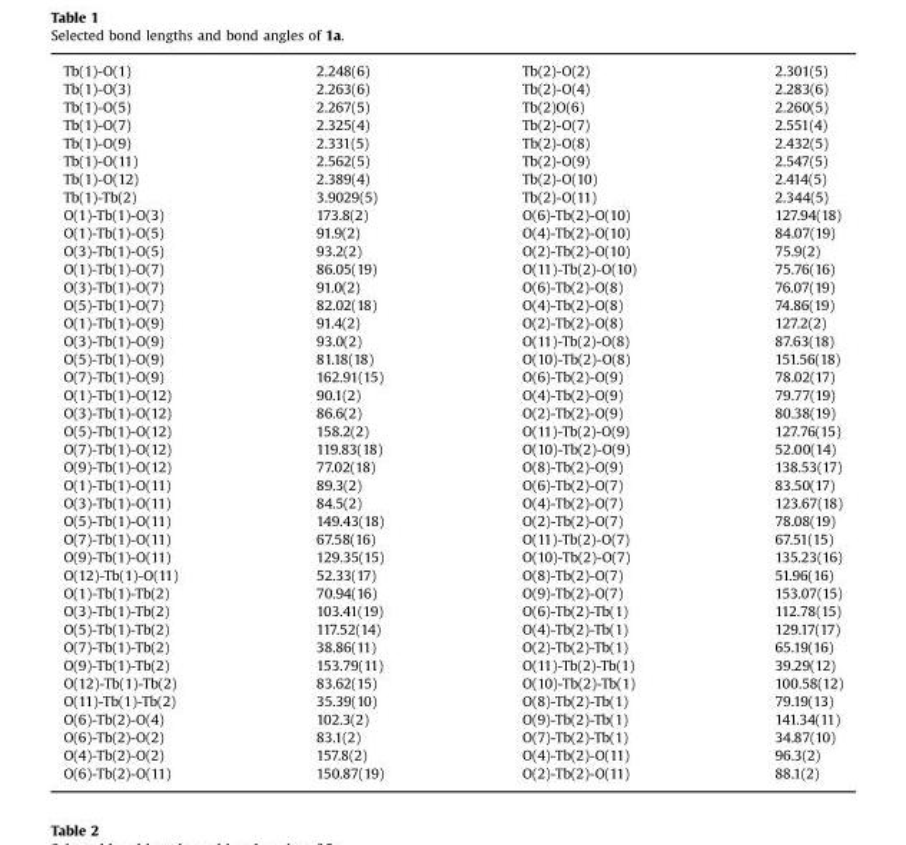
<table><tbody><tr><td>Tb(1)-O(1)</td><td>2.248(6)</td><td>Tb(2)-O(2)</td><td>2.301(5)</td></tr><tr><td>Tb(1)-O(3)</td><td>2.263(6)</td><td>Tb(2)-O(4)</td><td>2.283(6)</td></tr><tr><td>Tb(1)-O(5)</td><td>2.267(5)</td><td>Tb(2)O(6)</td><td>2.260(5)</td></tr><tr><td>Tb(1)-O(7)</td><td>2.325(4)</td><td>Tb(2)-O(7)</td><td>2.551(4)</td></tr><tr><td>Tb(1)-O(9)</td><td>2.331(5)</td><td>Tb(2)-O(8)</td><td>2.432(5)</td></tr><tr><td>Tb(1)-O(11)</td><td>2.562(5)</td><td>Tb(2)-O(9)</td><td>2.547(5)</td></tr><tr><td>Tb(1)-O(12)</td><td>2.389(4)</td><td>Tb(2)-O(10)</td><td>2.414(5)</td></tr><tr><td>Tb(1)-Tb(2)</td><td>3.9029(5)</td><td>Tb(2)-O(11)</td><td>2.344(5)</td></tr><tr><td>O(1)-Tb(1)-O(3)</td><td>173.8(2)</td><td>O(6)-Tb(2)-O(10)</td><td>127.94(18)</td></tr><tr><td>O(1)-Tb(1)-O(5)</td><td>91.9(2)</td><td>O(4)-Tb(2)-O(10)</td><td>84.07(19)</td></tr><tr><td>O(3)-Tb(1)-O(5)</td><td>93.2(2)</td><td>O(2)-Tb(2)-O(10)</td><td>75.9(2)</td></tr><tr><td>O(1)-Tb(1)-O(7)</td><td>86.05(19)</td><td>O(11)-Tb(2)-O(10)</td><td>75.76(16)</td></tr><tr><td>O(3)-Tb(1)-O(7)</td><td>91.0(2)</td><td>O(6)-Tb(2)-O(8)</td><td>76.07(19)</td></tr><tr><td>O(5)-Tb(1)-O(7)</td><td>82.02(18)</td><td>O(4)-Tb(2)-O(8)</td><td>74.86(19)</td></tr><tr><td>O(1)-Tb(1)-O(9)</td><td>91.4(2)</td><td>O(2)-Tb(2)-O(8)</td><td>127.2(2)</td></tr><tr><td>O(3)-Tb(1)-O(9)</td><td>93.0(2)</td><td>O(11)-Tb(2)-O(8)</td><td>87.63(18)</td></tr><tr><td>O(5)-Tb(1)-O(9)</td><td>81.18(18)</td><td>O(10)-Tb(2)-O(8)</td><td>151.56(18)</td></tr><tr><td>O(7)-Tb(1)-O(9)</td><td>162.91(15)</td><td>O(6)-Tb(2)-O(9)</td><td>78.02(17)</td></tr><tr><td>O(1)-Tb(1)-O(12)</td><td>90.1(2)</td><td>O(4)-Tb(2)-O(9)</td><td>79.77(19)</td></tr><tr><td>O(3)-Tb(1)-O(12)</td><td>86.6(2)</td><td>O(2)-Tb(2)-O(9)</td><td>80.38(19)</td></tr><tr><td>O(5)-Tb(1)-O(12)</td><td>158.2(2)</td><td>O(11)-Tb(2)-O(9)</td><td>127.76(15)</td></tr><tr><td>O(7)-Tb(1)-O(12)</td><td>119.83(18)</td><td>O(10)-Tb(2)-O(9)</td><td>52.00(14)</td></tr><tr><td>O(9)-Tb(1)-O(12)</td><td>77.02(18)</td><td>O(8)-Tb(2)-O(9)</td><td>138.53(17)</td></tr><tr><td>O(1)-Tb(1)-O(11)</td><td>89.3(2)</td><td>O(6)-Tb(2)-O(7)</td><td>83.50(17)</td></tr><tr><td>O(3)-Tb(1)-O(11)</td><td>84.5(2)</td><td>O(4)-Tb(2)-O(7)</td><td>123.67(18)</td></tr><tr><td>O(5)-Tb(1)-O(11)</td><td>149.43(18)</td><td>O(2)-Tb(2)-O(7)</td><td>78.08(19)</td></tr><tr><td>O(7)-Tb(1)-O(11)</td><td>67.58(16)</td><td>O(11)-Tb(2)-O(7)</td><td>67.51(15)</td></tr><tr><td>O(9)-Tb(1)-O(11)</td><td>129.35(15)</td><td>O(10)-Tb(2)-O(7)</td><td>135.23(16)</td></tr><tr><td>O(12)-Tb(1)-O(11)</td><td>52.33(17)</td><td>O(8)-Tb(2)-O(7)</td><td>51.96(16)</td></tr><tr><td>O(1)-Tb(1)-Tb(2)</td><td>70.94(16)</td><td>O(9)-Tb(2)-O(7)</td><td>153.07(15)</td></tr><tr><td>O(3)-Tb(1)-Tb(2)</td><td>103.41(19)</td><td>O(6)-Tb(2)-Tb(1)</td><td>112.78(15)</td></tr><tr><td>O(5)-Tb(1)-Tb(2)</td><td>117.52(14)</td><td>O(4)-Tb(2)-Tb(1)</td><td>129.17(17)</td></tr><tr><td>O(7)-Tb(1)-Tb(2)</td><td>38.86(11)</td><td>O(2)-Tb(2)-Tb(1)</td><td>65.19(16)</td></tr><tr><td>O(9)-Tb(1)-Tb(2)</td><td>153.79(11)</td><td>O(11)-Tb(2)-Tb(1)</td><td>39.29(12)</td></tr><tr><td>O(12)-Tb(1)-Tb(2)</td><td>83.62(15)</td><td>O(10)-Tb(2)-Tb(1)</td><td>100.58(12)</td></tr><tr><td>O(11)-Tb(1)-Tb(2)</td><td>35.39(10)</td><td>O(8)-Tb(2)-Tb(1)</td><td>79.19(13)</td></tr><tr><td>O(6)-Tb(2)-O(4)</td><td>102.3(2)</td><td>O(9)-Tb(2)-Tb(1)</td><td>141.34(11)</td></tr><tr><td>O(6)-Tb(2)-O(2)</td><td>83.1(2)</td><td>O(7)-Tb(2)-Tb(1)</td><td>34.87(10)</td></tr><tr><td>O(4)-Tb(2)-O(2)</td><td>157.8(2)</td><td>O(4)-Tb(2)-O(11)</td><td>96.3(2)</td></tr><tr><td>O(6)-Tb(2)-O(11)</td><td>150.87(19)</td><td>O(2)-Tb(2)-O(11)</td><td>88.1(2)</td></tr></tbody></table>